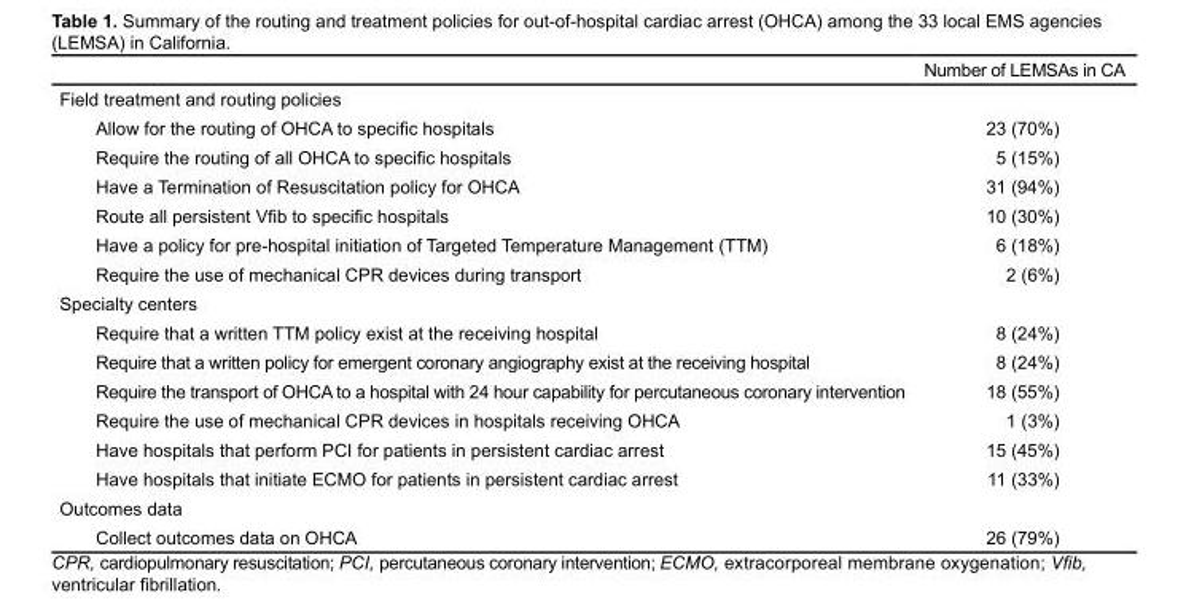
<table><thead><tr><td></td><td>Number of LEMSAs in CA</td></tr></thead><tbody><tr><td colspan="2">Field treatment and routing policies</td></tr><tr><td>Allow for the routing of OHCA to specific hospitals</td><td>23 (70%)</td></tr><tr><td>Require the routing of all OHCA to specific hospitals</td><td>5 (15%)</td></tr><tr><td>Have a Termination of Resuscitation policy for OHCA</td><td>31 (94%)</td></tr><tr><td>Route all persistent Vfib to specific hospitals</td><td>10 (30%)</td></tr><tr><td>Have a policy for pre-hospital initiation of Targeted Temperature Management (TTM)</td><td>6 (18%)</td></tr><tr><td>Require the use of mechanical CPR devices during transport</td><td>2 (6%)</td></tr><tr><td colspan="2">Specialty centers</td></tr><tr><td>Require that a written TTM policy exist at the receiving hospital</td><td>8 (24%)</td></tr><tr><td>Require that a written policy for emergent coronary angiography exist at the receiving hospital</td><td>8 (24%)</td></tr><tr><td>Require the transport of OHCA to a hospital with 24 hour capability for percutaneous coronary intervention</td><td>18 (55%)</td></tr><tr><td>Require the use of mechanical CPR devices in hospitals receiving OHCA</td><td>1 (3%)</td></tr><tr><td>Have hospitals that perform PCI for patients in persistent cardiac arrest</td><td>15 (45%)</td></tr><tr><td>Have hospitals that initiate ECMO for patients in persistent cardiac arrest</td><td>11 (33%)</td></tr><tr><td colspan="2">Outcomes data</td></tr><tr><td>Collect outcomes data on OHCA</td><td>26 (79%)</td></tr></tbody></table>